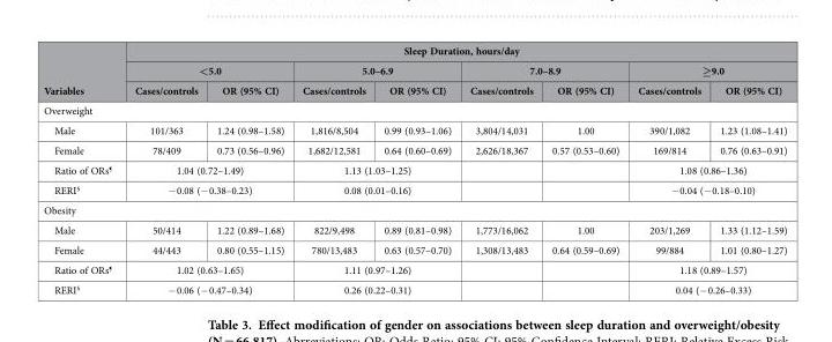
<table><thead><tr><td rowspan="3">Variables</td><td colspan="8">Sleep Duration, hours/day</td></tr><tr><td colspan="2">&lt;5.0</td><td colspan="2">5.0–6.9</td><td colspan="2">7.0–8.9</td><td colspan="2">≥9.0</td></tr><tr><td>Cases/controls</td><td>OR (95% CI)</td><td>Cases/controls</td><td>OR (95% CI)</td><td>Cases/controls</td><td>OR (95% CI)</td><td>Cases/controls</td><td>OR (95% CI)</td></tr></thead><tbody><tr><td colspan="9">Overweight</td></tr><tr><td>Male</td><td>101/363</td><td>1.24 (0.98–1.58)</td><td>1,816/8,504</td><td>0.99 (0.93–1.06)</td><td>3,804/14,031</td><td>1.00</td><td>390/1,082</td><td>1.23 (1.08–1.41)</td></tr><tr><td>Female</td><td>78/409</td><td>0.73 (0.56–0.96)</td><td>1,682/12,581</td><td>0.64 (0.60–0.69)</td><td>2,626/18,367</td><td>0.57 (0.53–0.60)</td><td>169/814</td><td>0.76 (0.63–0.91)</td></tr><tr><td>Ratio of ORs<sup>¶</sup></td><td colspan="2">1.04 (0.72–1.49)</td><td colspan="2">1.13 (1.03–1.25)</td><td></td><td></td><td colspan="2">1.08 (0.86–1.36)</td></tr><tr><td>RERI<sup>§</sup></td><td colspan="2">− 0.08 (− 0.38–0.23)</td><td colspan="2">0.08 (0.01–0.16)</td><td></td><td></td><td colspan="2">− 0.04 (− 0.18–0.10)</td></tr><tr><td colspan="9">Obesity</td></tr><tr><td>Male</td><td>50/414</td><td>1.22 (0.89–1.68)</td><td>822/9,498</td><td>0.89 (0.81–0.98)</td><td>1,773/16,062</td><td>1.00</td><td>203/1,269</td><td>1.33 (1.12–1.59)</td></tr><tr><td>Female</td><td>44/443</td><td>0.80 (0.55–1.15)</td><td>780/13,483</td><td>0.63 (0.57–0.70)</td><td>1,308/13,483</td><td>0.64 (0.59–0.69)</td><td>99/884</td><td>1.01 (0.80–1.27)</td></tr><tr><td>Ratio of ORs<sup>¶</sup></td><td colspan="2">1.02 (0.63–1.65)</td><td colspan="2">1.11 (0.97–1.26)</td><td></td><td></td><td colspan="2">1.18 (0.89–1.57)</td></tr><tr><td>RERI<sup>§</sup></td><td colspan="2">− 0.06 (− 0.47–0.34)</td><td colspan="2">0.26 (0.22–0.31)</td><td></td><td></td><td colspan="2">0.04 (− 0.26–0.33)</td></tr></tbody></table>